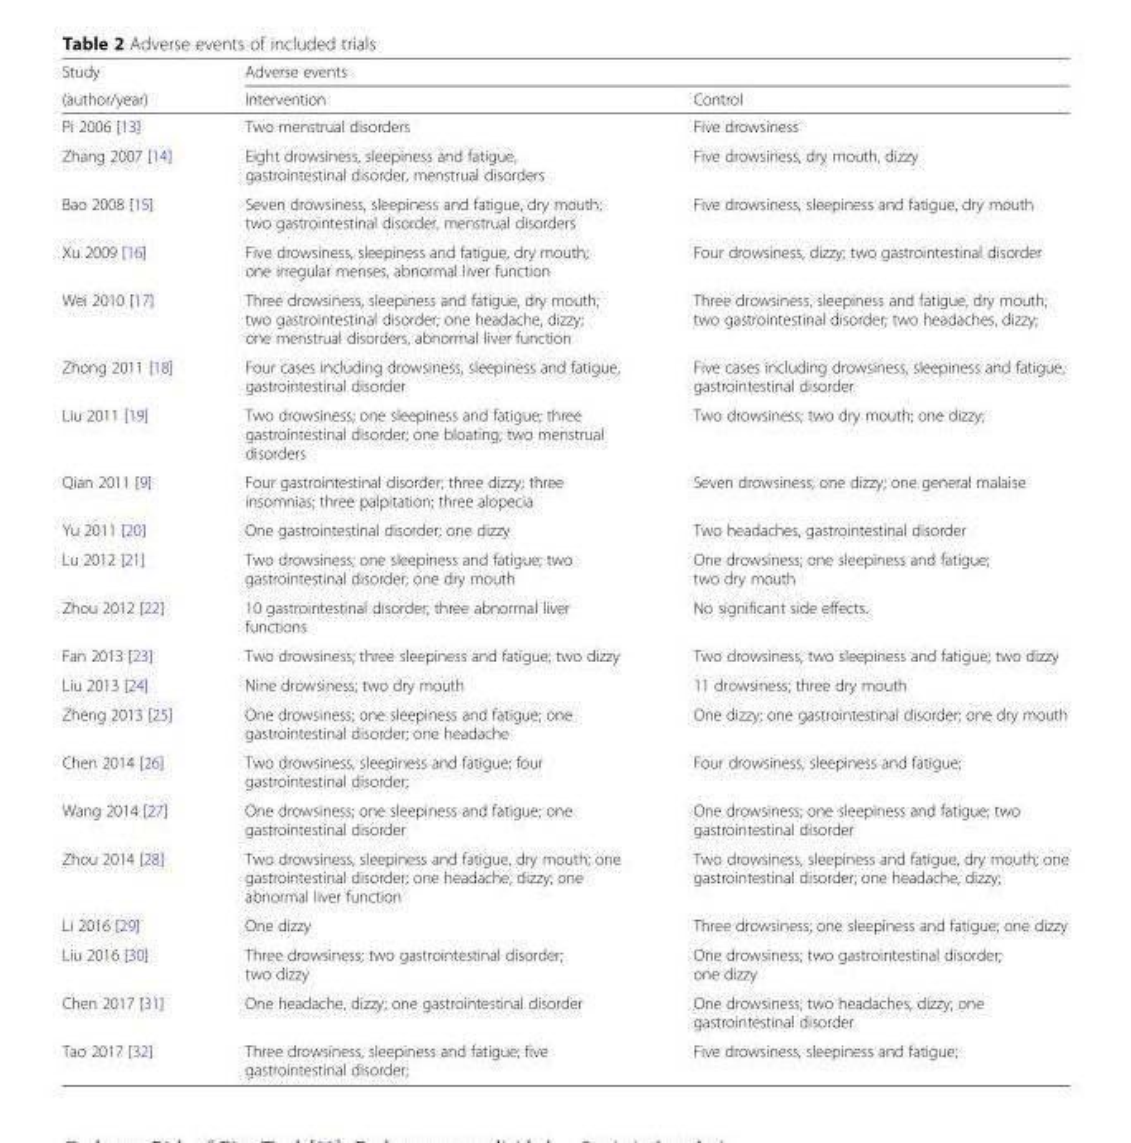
<table><thead><tr><td rowspan="2">Study (author/year)</td><td colspan="2">Adverse events</td></tr><tr><td>Intervention</td><td>Control</td></tr></thead><tbody><tr><td>Pi 2006 [13]</td><td>Two menstrual disorders</td><td>Five drowsiness</td></tr><tr><td>Zhang 2007 [14]</td><td>Eight drowsiness, sleepiness and fatigue, gastrointestinal disorder, menstrual disorders</td><td>Five drowsiness, dry mouth, dizzy</td></tr><tr><td>Bao 2008 [15]</td><td>Seven drowsiness, sleepiness and fatigue, dry mouth; two gastrointestinal disorder, menstrual disorders</td><td>Five drowsiness, sleepiness and fatigue, dry mouth</td></tr><tr><td>Xu 2009 [16]</td><td>Five drowsiness, sleepiness and fatigue, dry mouth; one irregular menses, abnormal liver function</td><td>Four drowsiness, dizzy; two gastrointestinal disorder</td></tr><tr><td>Wei 2010 [17]</td><td>Three drowsiness, sleepiness and fatigue, dry mouth; two gastrointestinal disorder; one headache, dizzy; one menstrual disorders, abnormal liver function</td><td>Three drowsiness, sleepiness and fatigue, dry mouth; two gastrointestinal disorder; two headaches, dizzy;</td></tr><tr><td>Zhong 2011 [18]</td><td>Four cases including drowsiness, sleepiness and fatigue, gastrointestinal disorder</td><td>Five cases including drowsiness, sleepiness and fatigue, gastrointestinal disorder</td></tr><tr><td>Liu 2011 [19]</td><td>Two drowsiness; one sleepiness and fatigue; three gastrointestinal disorder; one bloating; two menstrual disorders</td><td>Two drowsiness; two dry mouth; one dizzy;</td></tr><tr><td>Qian 2011 [9]</td><td>Four gastrointestinal disorder; three dizzy; three insomnias; three palpitation; three alopecia</td><td>Seven drowsiness; one dizzy; one general malaise</td></tr><tr><td>Yu 2011 [20]</td><td>One gastrointestinal disorder; one dizzy</td><td>Two headaches, gastrointestinal disorder</td></tr><tr><td>Lu 2012 [21]</td><td>Two drowsiness; one sleepiness and fatigue; two gastrointestinal disorder; one dry mouth</td><td>One drowsiness; one sleepiness and fatigue; two dry mouth</td></tr><tr><td>Zhou 2012 [22]</td><td>10 gastrointestinal disorder; three abnormal liver functions</td><td>No significant side effects.</td></tr><tr><td>Fan 2013 [23]</td><td>Two drowsiness; three sleepiness and fatigue; two dizzy</td><td>Two drowsiness; two sleepiness and fatigue; two dizzy</td></tr><tr><td>Liu 2013 [24]</td><td>Nine drowsiness; two dry mouth</td><td>11 drowsiness; three dry mouth</td></tr><tr><td>Zheng 2013 [25]</td><td>One drowsiness; one sleepiness and fatigue; one gastrointestinal disorder; one headache</td><td>One dizzy; one gastrointestinal disorder; one dry mouth</td></tr><tr><td>Chen 2014 [26]</td><td>Two drowsiness, sleepiness and fatigue; four gastrointestinal disorder;</td><td>Four drowsiness, sleepiness and fatigue;</td></tr><tr><td>Wang 2014 [27]</td><td>One drowsiness; one sleepiness and fatigue; one gastrointestinal disorder</td><td>One drowsiness; one sleepiness and fatigue; two gastrointestinal disorder</td></tr><tr><td>Zhou 2014 [28]</td><td>Two drowsiness, sleepiness and fatigue, dry mouth; one gastrointestinal disorder; one headache, dizzy; one abnormal liver function</td><td>Two drowsiness, sleepiness and fatigue, dry mouth; one gastrointestinal disorder; one headache, dizzy;</td></tr><tr><td>Li 2016 [29]</td><td>One dizzy</td><td>Three drowsiness; one sleepiness and fatigue; one dizzy</td></tr><tr><td>Liu 2016 [30]</td><td>Three drowsiness; two gastrointestinal disorder; two dizzy</td><td>One drowsiness; two gastrointestinal disorder; one dizzy</td></tr><tr><td>Chen 2017 [31]</td><td>One headache, dizzy; one gastrointestinal disorder</td><td>One drowsiness; two headaches, dizzy; one gastrointestinal disorder</td></tr><tr><td>Tao 2017 [32]</td><td>Three drowsiness, sleepiness and fatigue; five gastrointestinal disorder;</td><td>Five drowsiness, sleepiness and fatigue;</td></tr></tbody></table>